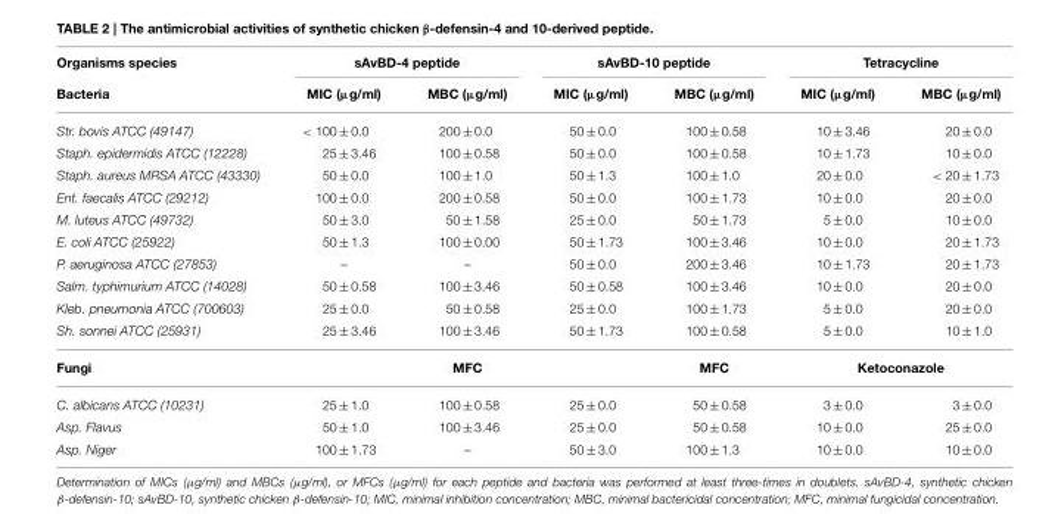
<table><thead><tr><td rowspan="2">Organisms species Bacteria</td><td colspan="2">sAvBD-4 peptide</td><td colspan="2">sAvBD-10 peptide</td><td colspan="2">Tetracycline</td></tr><tr><td>MIC (µg/ml)</td><td>MBC (µg/ml)</td><td>MIC (µg/ml)</td><td>MBC (µg/ml)</td><td>MIC (µg/ml)</td><td>MBC (µg/ml)</td></tr></thead><tbody><tr><td>Str. bovis ATCC (49147)</td><td>&lt; 100 ± 0.0</td><td>200 ± 0.0</td><td>50 ± 0.0</td><td>100 ± 0.58</td><td>10 ± 3.46</td><td>20 ± 0.0</td></tr><tr><td>Staph. epidermidis ATCC (12228)</td><td>25 ± 3.46</td><td>100 ± 0.58</td><td>50 ± 0.0</td><td>100 ± 0.58</td><td>10 ± 1.73</td><td>10 ± 0.0</td></tr><tr><td>Staph. aureus MRSA ATCC (43330)</td><td>50 ± 0.0</td><td>100 ± 1.0</td><td>50 ± 1.3</td><td>100 ± 1.0</td><td>20 ± 0.0</td><td>&lt; 20 ± 1.73</td></tr><tr><td>Ent. faecalis ATCC (29212)</td><td>100 ± 0.0</td><td>200 ± 0.58</td><td>50 ± 0.0</td><td>100 ± 1.73</td><td>10 ± 0.0</td><td>20 ± 0.0</td></tr><tr><td>M. luteus ATCC (49732)</td><td>50 ± 3.0</td><td>50 ± 1.58</td><td>25 ± 0.0</td><td>50 ± 1.73</td><td>5 ± 0.0</td><td>10 ± 0.0</td></tr><tr><td>E. coli ATCC (25922)</td><td>50 ± 1.3</td><td>100 ± 0.00</td><td>50 ± 1.73</td><td>100 ± 3.46</td><td>10 ± 0.0</td><td>20 ± 1.73</td></tr><tr><td>P. aeruginosa ATCC (27853)</td><td>–</td><td>–</td><td>50 ± 0.0</td><td>200 ± 3.46</td><td>10 ± 1.73</td><td>20 ± 1.73</td></tr><tr><td>Salm. typhimurium ATCC (14028)</td><td>50 ± 0.58</td><td>100 ± 3.46</td><td>50 ± 0.58</td><td>100 ± 3.46</td><td>10 ± 0.0</td><td>20 ± 0.0</td></tr><tr><td>Kleb. pneumonia ATCC (700603)</td><td>25 ± 0.0</td><td>50 ± 0.58</td><td>25 ± 0.0</td><td>100 ± 1.73</td><td>5 ± 0.0</td><td>20 ± 0.0</td></tr><tr><td>Sh. sonnei ATCC (25931)</td><td>25 ± 3.46</td><td>100 ± 3.46</td><td>50 ± 1.73</td><td>100 ± 0.58</td><td>5 ± 0.0</td><td>10 ± 1.0</td></tr><tr><td>Fungi</td><td></td><td>MFC</td><td></td><td>MFC</td><td colspan="2">Ketoconazole</td></tr><tr><td>C. albicans ATCC (10231)</td><td>25 ± 1.0</td><td>100 ± 0.58</td><td>25 ± 0.0</td><td>50 ± 0.58</td><td>3 ± 0.0</td><td>3 ± 0.0</td></tr><tr><td>Asp. Flavus</td><td>50 ± 1.0</td><td>100 ± 3.46</td><td>25 ± 0.0</td><td>50 ± 0.58</td><td>10 ± 0.0</td><td>25 ± 0.0</td></tr><tr><td>Asp. Niger</td><td>100 ± 1.73</td><td>–</td><td>50 ± 3.0</td><td>100 ± 1.3</td><td>10 ± 0.0</td><td>10 ± 0.0</td></tr></tbody></table>